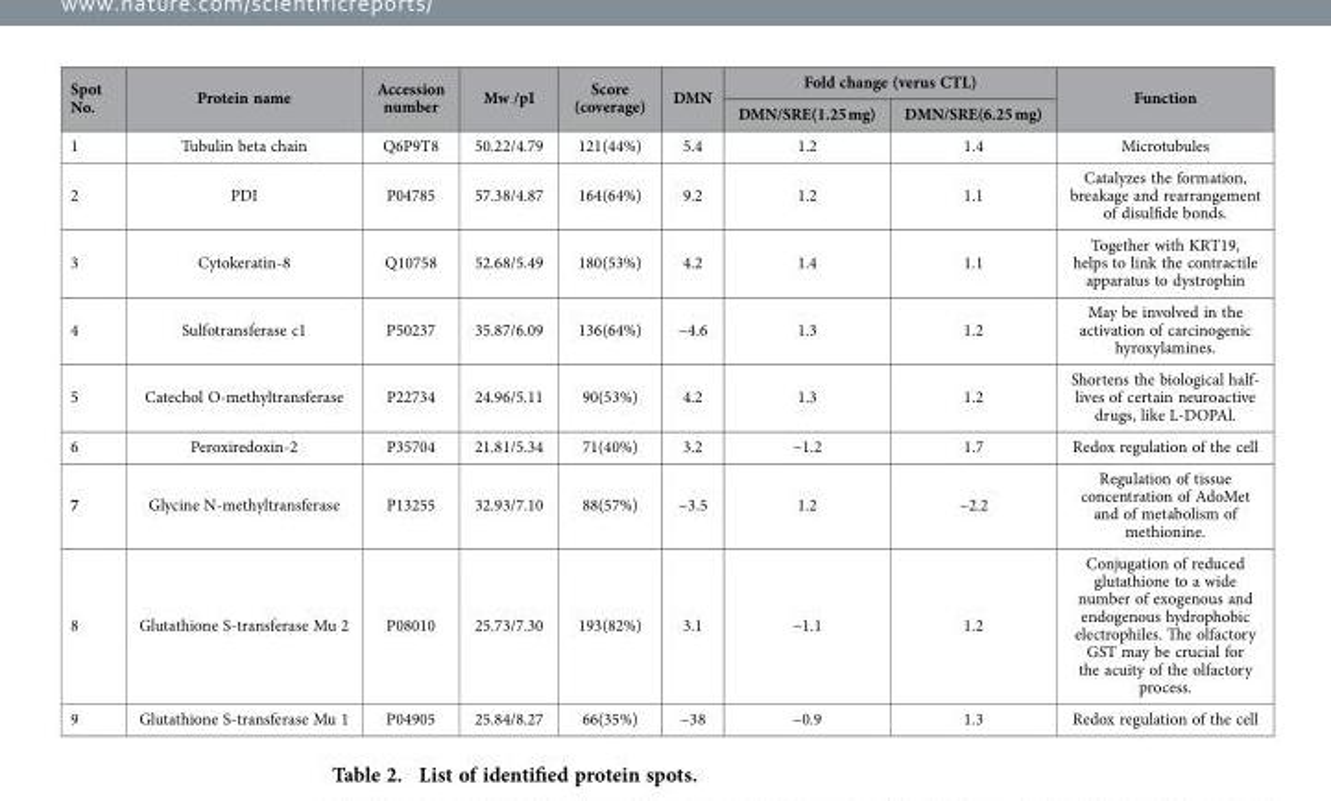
<table><thead><tr><td rowspan="2">Spot No.</td><td rowspan="2">Protein name</td><td rowspan="2">Accession number</td><td rowspan="2">Mw /pI</td><td rowspan="2">Score (coverage)</td><td rowspan="2">DMN</td><td colspan="2">Fold change (verus CTL)</td><td rowspan="2">Function</td></tr><tr><td>DMN/SRE(1.25 mg)</td><td>DMN/SRE(6.25 mg)</td></tr></thead><tbody><tr><td>1</td><td>Tubulin beta chain</td><td>Q6P9T8</td><td>50.22/4.79</td><td>121(44%)</td><td>5.4</td><td>1.2</td><td>1.4</td><td>Microtubules</td></tr><tr><td>2</td><td>PDI</td><td>P04785</td><td>57.38/4.87</td><td>164(64%)</td><td>9.2</td><td>1.2</td><td>1.1</td><td>Catalyzes the formation, breakage and rearrangement of disulfide bonds.</td></tr><tr><td>3</td><td>Cytokeratin-8</td><td>Q10758</td><td>52.68/5.49</td><td>180(53%)</td><td>4.2</td><td>1.4</td><td>1.1</td><td>Together with KRT19, helps to link the contractile apparatus to dystrophin</td></tr><tr><td>4</td><td>Sulfotransferase c1</td><td>P50237</td><td>35.87/6.09</td><td>136(64%)</td><td>−4.6</td><td>1.3</td><td>1.2</td><td>May be involved in the activation of carcinogenic hyroxylamines.</td></tr><tr><td>5</td><td>Catechol O-methyltransferase</td><td>P22734</td><td>24.96/5.11</td><td>90(53%)</td><td>4.2</td><td>1.3</td><td>1.2</td><td>Shortens the biological half- lives of certain neuroactive drugs, like L-DOPAl.</td></tr><tr><td>6</td><td>Peroxiredoxin-2</td><td>P35704</td><td>21.81/5.34</td><td>71(40%)</td><td>3.2</td><td>−1.2</td><td>1.7</td><td>Redox regulation of the cell</td></tr><tr><td>7</td><td>Glycine N-methyltransferase</td><td>P13255</td><td>32.93/7.10</td><td>88(57%)</td><td>−3.5</td><td>1.2</td><td>−2.2</td><td>Regulation of tissue concentration of AdoMet and of metabolism of methionine.</td></tr><tr><td>8</td><td>Glutathione S-transferase Mu 2</td><td>P08010</td><td>25.73/7.30</td><td>193(82%)</td><td>3.1</td><td>−1.1</td><td>1.2</td><td>Conjugation of reduced glutathione to a wide number of exogenous and endogenous hydrophobic electrophiles. The olfactory GST may be crucial for the acuity of the olfactory process.</td></tr><tr><td>9</td><td>Glutathione S-transferase Mu 1</td><td>P04905</td><td>25.84/8.27</td><td>66(35%)</td><td>−38</td><td>−0.9</td><td>1.3</td><td>Redox regulation of the cell</td></tr></tbody></table>